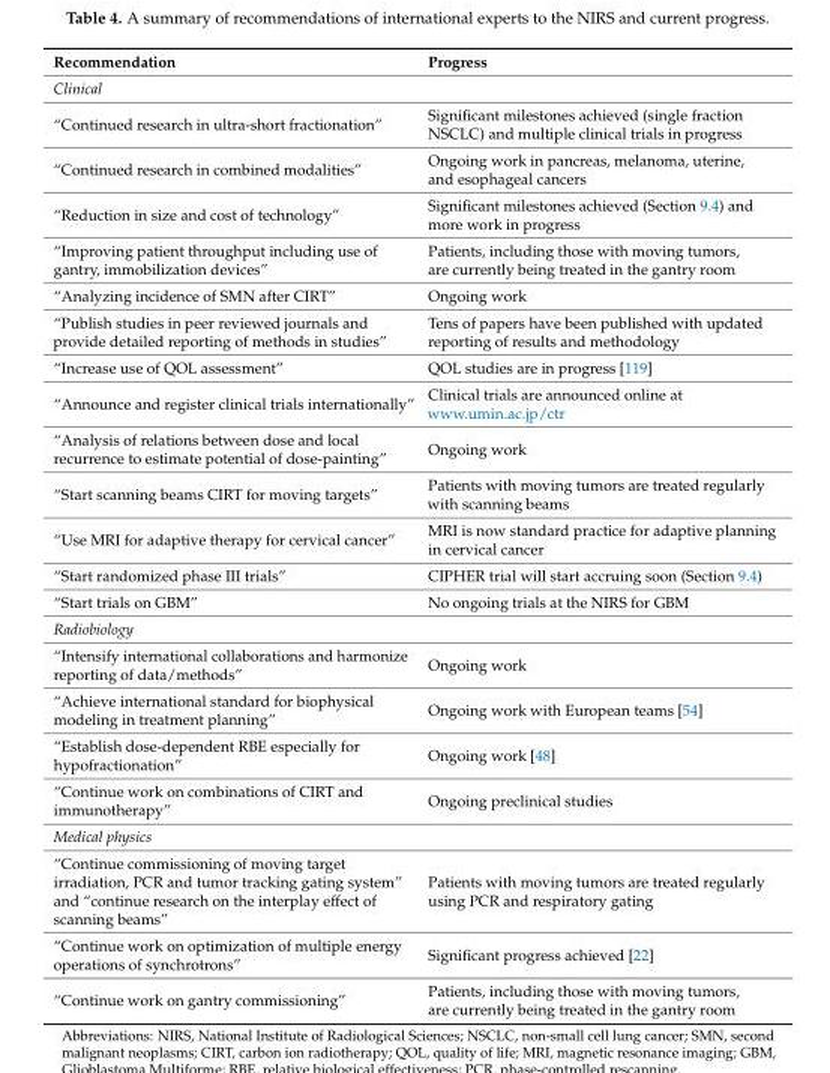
<table><thead><tr><td>Recommendation</td><td>Progress</td></tr></thead><tbody><tr><td colspan="2">Clinical</td></tr><tr><td>“Continued research in ultra-short fractionation”</td><td>Significant milestones achieved (single fraction NSCLC) and multiple clinical trials in progress</td></tr><tr><td>“Continued research in combined modalities”</td><td>Ongoing work in pancreas, melanoma, uterine, and esophageal cancers</td></tr><tr><td>“Reduction in size and cost of technology”</td><td>Significant milestones achieved (Section 9.4) and more work in progress</td></tr><tr><td>“Improving patient throughput including use of gantry, immobilization devices”</td><td>Patients, including those with moving tumors, are currently being treated in the gantry room</td></tr><tr><td>“Analyzing incidence of SMN after CIRT”</td><td>Ongoing work</td></tr><tr><td>“Publish studies in peer reviewed journals and provide detailed reporting of methods in studies”</td><td>Tens of papers have been published with updated reporting of results and methodology</td></tr><tr><td>“Increase use of QOL assessment”</td><td>QOL studies are in progress [119]</td></tr><tr><td>“Announce and register clinical trials internationally”</td><td>Clinical trials are announced online at www.umin.ac.jp/ctr</td></tr><tr><td>“Analysis of relations between dose and local recurrence to estimate potential of dose-painting”</td><td>Ongoing work</td></tr><tr><td>“Start scanning beams CIRT for moving targets”</td><td>Patients with moving tumors are treated regularly with scanning beams</td></tr><tr><td>“Use MRI for adaptive therapy for cervical cancer”</td><td>MRI is now standard practice for adaptive planning in cervical cancer</td></tr><tr><td>“Start randomized phase III trials”</td><td>CIPHER trial will start accruing soon (Section 9.4)</td></tr><tr><td>“Start trials on GBM”</td><td>No ongoing trials at the NIRS for GBM</td></tr><tr><td colspan="2">Radiobiology</td></tr><tr><td>“Intensify international collaborations and harmonize reporting of data/methods”</td><td>Ongoing work</td></tr><tr><td>“Achieve international standard for biophysical modeling in treatment planning”</td><td>Ongoing work with European teams [54]</td></tr><tr><td>“Establish dose-dependent RBE especially for hypofractionation”</td><td>Ongoing work [48]</td></tr><tr><td>“Continue work on combinations of CIRT and immunotherapy”</td><td>Ongoing preclinical studies</td></tr><tr><td colspan="2">Medical physics</td></tr><tr><td>“Continue commissioning of moving target irradiation, PCR and tumor tracking gating system” and “continue research on the interplay effect of scanning beams”</td><td>Patients with moving tumors are treated regularly using PCR and respiratory gating</td></tr><tr><td>“Continue work on optimization of multiple energy operations of synchrotrons”</td><td>Significant progress achieved [22]</td></tr><tr><td>“Continue work on gantry commissioning”</td><td>Patients, including those with moving tumors, are currently being treated in the gantry room</td></tr></tbody></table>